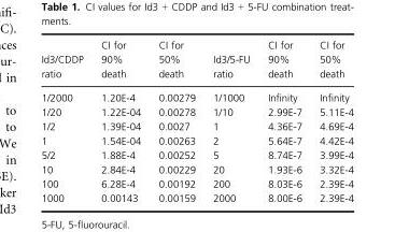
<table><thead><tr><td>Id3/CDDP ratio</td><td>CI for 90% death</td><td>CI for 50% death</td><td>Id3/5-FU ratio</td><td>CI for 90% death</td><td>CI for 50% death</td></tr></thead><tbody><tr><td>1/2000</td><td>1.20E-4</td><td>0.00279</td><td>1/1000</td><td>Infinity</td><td>Infinity</td></tr><tr><td>1/20</td><td>1.22E-04</td><td>0.00278</td><td>1/10</td><td>2.99E-7</td><td>5.11E-4</td></tr><tr><td>1/2</td><td>1.39E-04</td><td>0.0027</td><td>1</td><td>4.36E-7</td><td>4.69E-4</td></tr><tr><td>1</td><td>1.54E-04</td><td>0.00263</td><td>2</td><td>5.64E-7</td><td>4.42E-4</td></tr><tr><td>5/2</td><td>1.88E-4</td><td>0.00252</td><td>5</td><td>8.74E-7</td><td>3.99E-4</td></tr><tr><td>10</td><td>2.84E-4</td><td>0.00229</td><td>20</td><td>1.93E-6</td><td>3.32E-4</td></tr><tr><td>100</td><td>6.28E-4</td><td>0.00192</td><td>200</td><td>8.03E-6</td><td>2.39E-4</td></tr><tr><td>1000</td><td>0.00143</td><td>0.00159</td><td>2000</td><td>8.00E-6</td><td>2.39E-4</td></tr></tbody></table>